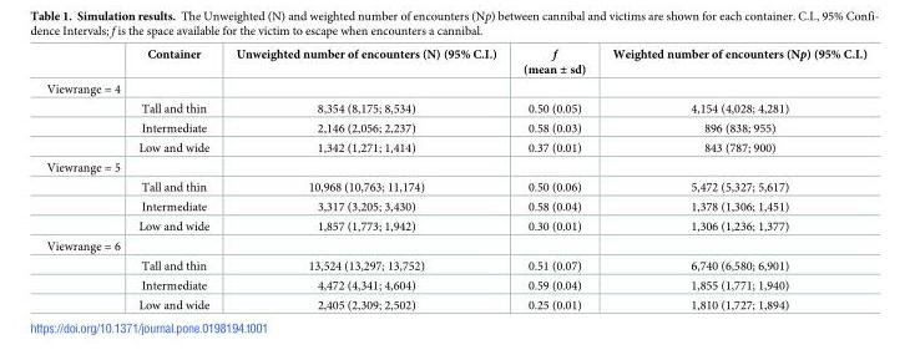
<table><thead><tr><td></td><td>Container</td><td>Unweighted number of encounters (N) (95% C.I.)</td><td>f (mean ± sd)</td><td>Weighted number of encounters (Np) (95% C.I.)</td></tr></thead><tbody><tr><td colspan="5">Viewrange = 4</td></tr><tr><td></td><td>Tall and thin</td><td>8,354 (8,175; 8,534)</td><td>0.50 (0.05)</td><td>4,154 (4,028; 4,281)</td></tr><tr><td></td><td>Intermediate</td><td>2,146 (2,056; 2,237)</td><td>0.58 (0.03)</td><td>896 (838; 955)</td></tr><tr><td></td><td>Low and wide</td><td>1,342 (1,271; 1,414)</td><td>0.37 (0.01)</td><td>843 (787; 900)</td></tr><tr><td colspan="5">Viewrange = 5</td></tr><tr><td></td><td>Tall and thin</td><td>10,968 (10,763; 11,174)</td><td>0.50 (0.06)</td><td>5,472 (5,327; 5,617)</td></tr><tr><td></td><td>Intermediate</td><td>3,317 (3,205; 3,430)</td><td>0.58 (0.04)</td><td>1,378 (1,306; 1,451)</td></tr><tr><td></td><td>Low and wide</td><td>1,857 (1,773; 1,942)</td><td>0.30 (0.01)</td><td>1,306 (1,236; 1,377)</td></tr><tr><td colspan="5">Viewrange = 6</td></tr><tr><td></td><td>Tall and thin</td><td>13,524 (13,297; 13,752)</td><td>0.51 (0.07)</td><td>6,740 (6,580; 6,901)</td></tr><tr><td></td><td>Intermediate</td><td>4,472 (4,341; 4,604)</td><td>0.59 (0.04)</td><td>1,855 (1,771; 1,940)</td></tr><tr><td></td><td>Low and wide</td><td>2,405 (2,309; 2,502)</td><td>0.25 (0.01)</td><td>1,810 (1,727; 1,894)</td></tr></tbody></table>